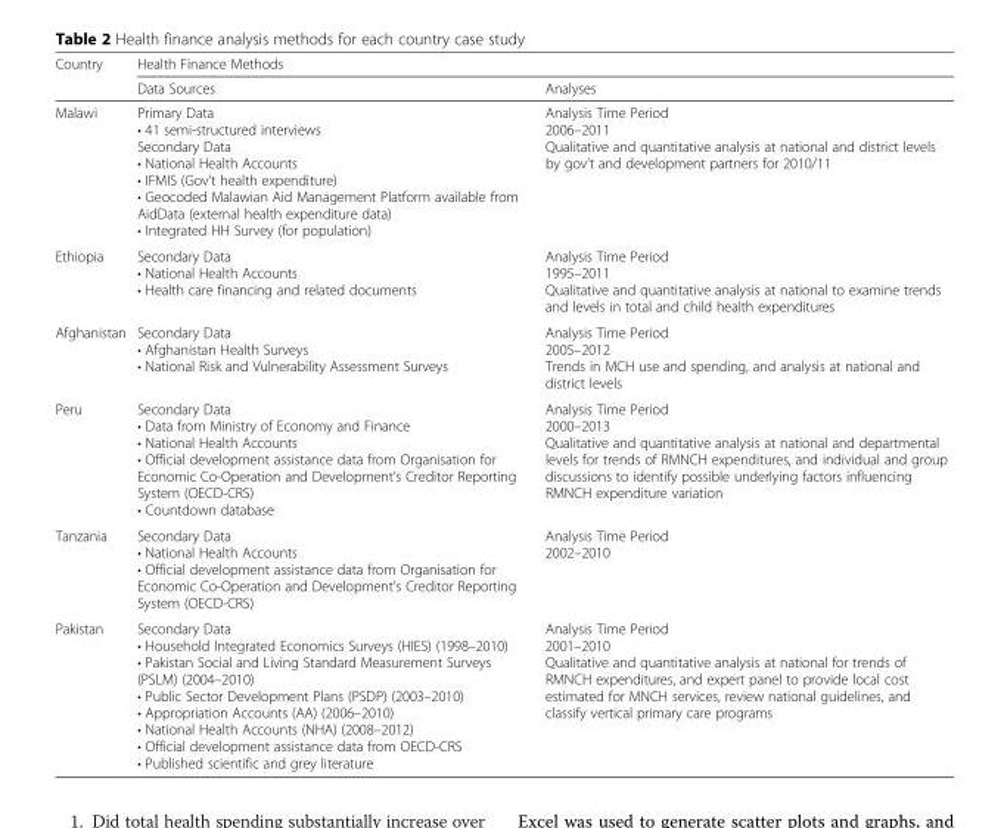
<table><thead><tr><td rowspan="2">Country</td><td colspan="2">Health Finance Methods</td></tr><tr><td>Data Sources</td><td>Analyses</td></tr></thead><tbody><tr><td>Malawi</td><td>Primary Data • 41 semi-structured interviews Secondary Data • National Health Accounts • IFMIS (Gov’t health expenditure) • Geocoded Malawian Aid Management Platform available from AidData (external health expenditure data) • Integrated HH Survey (for population)</td><td>Analysis Time Period 2006–2011 Qualitative and quantitative analysis at national and district levels by gov’t and development partners for 2010/11</td></tr><tr><td>Ethiopia</td><td>Secondary Data • National Health Accounts • Health care financing and related documents</td><td>Analysis Time Period 1995–2011 Qualitative and quantitative analysis at national to examine trends and levels in total and child health expenditures</td></tr><tr><td>Afghanistan</td><td>Secondary Data • Afghanistan Health Surveys • National Risk and Vulnerability Assessment Surveys</td><td>Analysis Time Period 2005–2012 Trends in MCH use and spending, and analysis at national and district levels</td></tr><tr><td>Peru</td><td>Secondary Data • Data from Ministry of Economy and Finance • National Health Accounts • Official development assistance data from Organisation for Economic Co-Operation and Development’s Creditor Reporting System (OECD-CRS) • Countdown database</td><td>Analysis Time Period 2000–2013 Qualitative and quantitative analysis at national and departmental levels for trends of RMNCH expenditures, and individual and group discussions to identify possible underlying factors influencing RMNCH expenditure variation</td></tr><tr><td>Tanzania</td><td>Secondary Data • National Health Accounts • Official development assistance data from Organisation for Economic Co-Operation and Development’s Creditor Reporting System (OECD-CRS)</td><td>Analysis Time Period 2002–2010</td></tr><tr><td>Pakistan</td><td>Secondary Data • Household Integrated Economics Surveys (HIES) (1998–2010) • Pakistan Social and Living Standard Measurement Surveys (PSLM) (2004–2010) • Public Sector Development Plans (PSDP) (2003–2010) • Appropriation Accounts (AA) (2006–2010) • National Health Accounts (NHA) (2008–2012) • Official development assistance data from OECD-CRS • Published scientific and grey literature</td><td>Analysis Time Period 2001–2010 Qualitative and quantitative analysis at national for trends of RMNCH expenditures, and expert panel to provide local cost estimated for MNCH services, review national guidelines, and classify vertical primary care programs</td></tr></tbody></table>